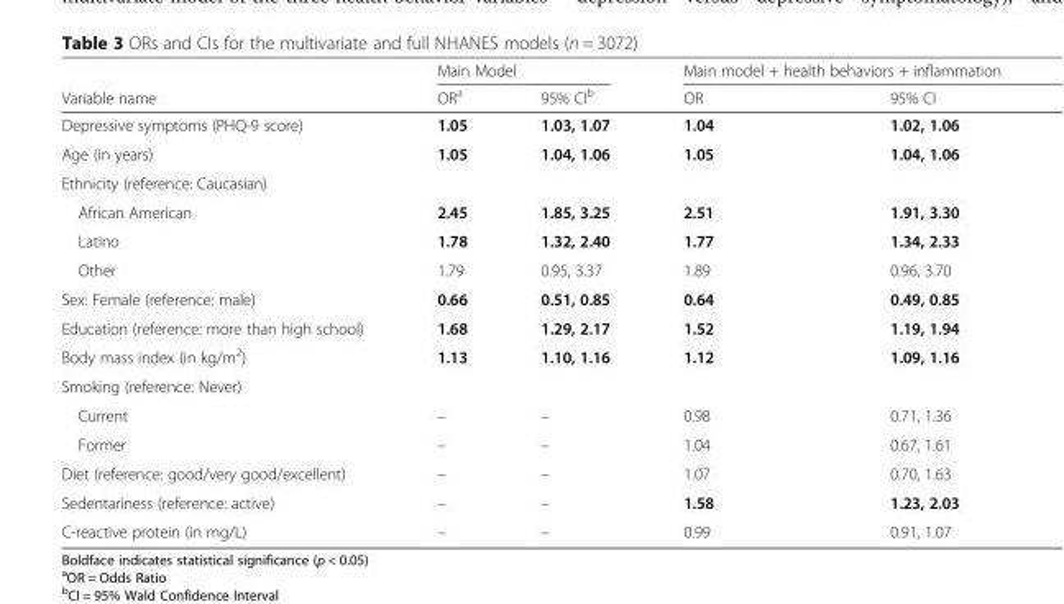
<table><thead><tr><td rowspan="2">Variable name</td><td colspan="2">Main Model</td><td colspan="2">Main model + health behaviors + inflammation</td></tr><tr><td>OR<sup>a</sup></td><td>95% CI<sup>b</sup></td><td>OR</td><td>95% CI</td></tr></thead><tbody><tr><td>Depressive symptoms (PHQ-9 score)</td><td>1.05</td><td>1.03, 1.07</td><td>1.04</td><td>1.02, 1.06</td></tr><tr><td>Age (in years)</td><td>1.05</td><td>1.04, 1.06</td><td>1.05</td><td>1.04, 1.06</td></tr><tr><td colspan="5">Ethnicity (reference: Caucasian)</td></tr><tr><td>African American</td><td>2.45</td><td>1.85, 3.25</td><td>2.51</td><td>1.91, 3.30</td></tr><tr><td>Latino</td><td>1.78</td><td>1.32, 2.40</td><td>1.77</td><td>1.34, 2.33</td></tr><tr><td>Other</td><td>1.79</td><td>0.95, 3.37</td><td>1.89</td><td>0.96, 3.70</td></tr><tr><td>Sex: Female (reference: male)</td><td>0.66</td><td>0.51, 0.85</td><td>0.64</td><td>0.49, 0.85</td></tr><tr><td>Education (reference: more than high school)</td><td>1.68</td><td>1.29, 2.17</td><td>1.52</td><td>1.19, 1.94</td></tr><tr><td>Body mass index (in kg/m<sup>2</sup>)</td><td>1.13</td><td>1.10, 1.16</td><td>1.12</td><td>1.09, 1.16</td></tr><tr><td colspan="5">Smoking (reference: Never)</td></tr><tr><td>Current</td><td>–</td><td>–</td><td>0.98</td><td>0.71, 1.36</td></tr><tr><td>Former</td><td>–</td><td>–</td><td>1.04</td><td>0.67, 1.61</td></tr><tr><td>Diet (reference: good/very good/excellent)</td><td>–</td><td>–</td><td>1.07</td><td>0.70, 1.63</td></tr><tr><td>Sedentariness (reference: active)</td><td>–</td><td>–</td><td>1.58</td><td>1.23, 2.03</td></tr><tr><td>C-reactive protein (in mg/L)</td><td>–</td><td>–</td><td>0.99</td><td>0.91, 1.07</td></tr></tbody></table>